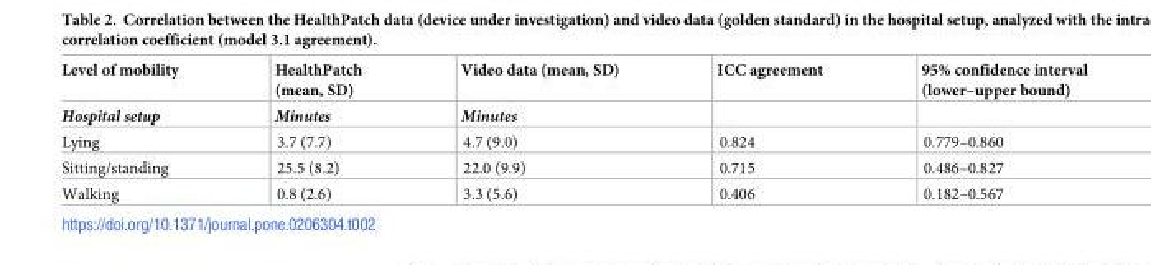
<table><thead><tr><td rowspan="2">Level of mobility Hospital setup</td><td rowspan="2">HealthPatch (mean, SD) Minutes</td><td rowspan="2">Video data (mean, SD) Minutes</td><td rowspan="2">ICC agreement</td><td rowspan="2">95% confidence interval (lower–upper bound)</td></tr><tr></tr></thead><tbody><tr><td>Lying</td><td>3.7 (7.7)</td><td>4.7 (9.0)</td><td>0.824</td><td>0.779–0.860</td></tr><tr><td>Sitting/standing</td><td>25.5 (8.2)</td><td>22.0 (9.9)</td><td>0.715</td><td>0.486–0.827</td></tr><tr><td>Walking</td><td>0.8 (2.6)</td><td>3.3 (5.6)</td><td>0.406</td><td>0.182–0.567</td></tr></tbody></table>